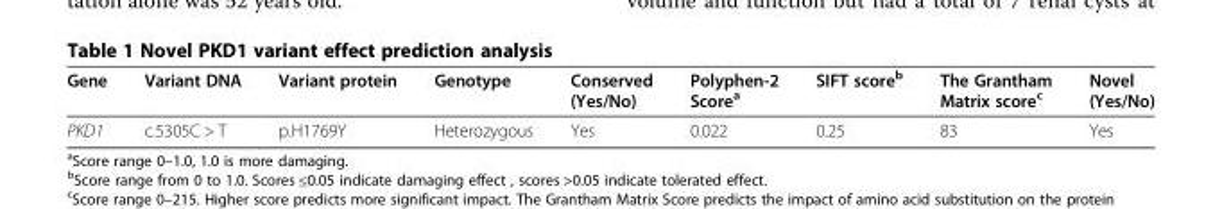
<table><thead><tr><td>Gene</td><td>Variant DNA</td><td>Variant protein</td><td>Genotype</td><td>Conserved (Yes/No)</td><td>Polyphen-2 Score<sup>a</sup></td><td>SIFT score<sup>b</sup></td><td>The Grantham Matrix score<sup>c</sup></td><td>Novel (Yes/No)</td></tr></thead><tbody><tr><td>PKD1</td><td>c.5305C &gt; T</td><td>p.H1769Y</td><td>Heterozygous</td><td>Yes</td><td>0.022</td><td>0.25</td><td>83</td><td>Yes</td></tr></tbody></table>